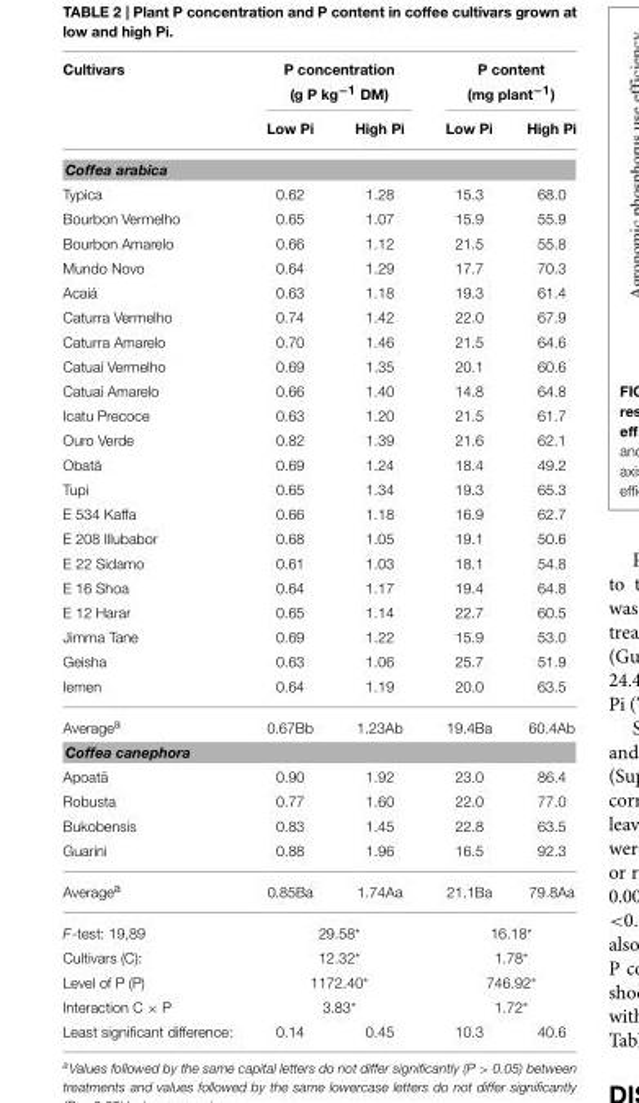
<table><thead><tr><td rowspan="2">Cultivars</td><td colspan="2">P concentration (g P kg<sup>−1</sup> DM)</td><td colspan="2">P content (mg plant<sup>−1</sup>)</td></tr><tr><td>Low Pi</td><td>High Pi</td><td>Low Pi</td><td>High Pi</td></tr></thead><tbody><tr><td colspan="5">Coffea arabica</td></tr><tr><td>Typica</td><td>0.62</td><td>1.28</td><td>15.3</td><td>68.0</td></tr><tr><td>Bourbon Vermelho</td><td>0.65</td><td>1.07</td><td>15.9</td><td>55.9</td></tr><tr><td>Bourbon Amarelo</td><td>0.66</td><td>1.12</td><td>21.5</td><td>55.8</td></tr><tr><td>Mundo Novo</td><td>0.64</td><td>1.29</td><td>17.7</td><td>70.3</td></tr><tr><td>Acaiá</td><td>0.63</td><td>1.18</td><td>19.3</td><td>61.4</td></tr><tr><td>Caturra Vermelho</td><td>0.74</td><td>1.42</td><td>22.0</td><td>67.9</td></tr><tr><td>Caturra Amarelo</td><td>0.70</td><td>1.46</td><td>21.5</td><td>64.6</td></tr><tr><td>Catuaí Vermelho</td><td>0.69</td><td>1.35</td><td>20.1</td><td>60.6</td></tr><tr><td>Catuaí Amarelo</td><td>0.66</td><td>1.40</td><td>14.8</td><td>64.8</td></tr><tr><td>Icatu Precoce</td><td>0.63</td><td>1.20</td><td>21.5</td><td>61.7</td></tr><tr><td>Ouro Verde</td><td>0.82</td><td>1.39</td><td>21.6</td><td>62.1</td></tr><tr><td>Obatã</td><td>0.69</td><td>1.24</td><td>18.4</td><td>49.2</td></tr><tr><td>Tupi</td><td>0.65</td><td>1.34</td><td>19.3</td><td>65.3</td></tr><tr><td>E 534 Kaffa</td><td>0.66</td><td>1.18</td><td>16.9</td><td>62.7</td></tr><tr><td>E 208 Illubabor</td><td>0.68</td><td>1.05</td><td>19.1</td><td>50.6</td></tr><tr><td>E 22 Sidamo</td><td>0.61</td><td>1.03</td><td>18.1</td><td>54.8</td></tr><tr><td>E 16 Shoa</td><td>0.64</td><td>1.17</td><td>19.4</td><td>64.8</td></tr><tr><td>E 12 Harar</td><td>0.65</td><td>1.14</td><td>22.7</td><td>60.5</td></tr><tr><td>Jimma Tane</td><td>0.69</td><td>1.22</td><td>15.9</td><td>53.0</td></tr><tr><td>Geisha</td><td>0.63</td><td>1.06</td><td>25.7</td><td>51.9</td></tr><tr><td>Iemen</td><td>0.64</td><td>1.19</td><td>20.0</td><td>63.5</td></tr><tr><td>Average<sup>a</sup></td><td>0.67Bb</td><td>1.23Ab</td><td>19.4Ba</td><td>60.4Ab</td></tr><tr><td colspan="5">Coffea canephora</td></tr><tr><td>Apoatã</td><td>0.90</td><td>1.92</td><td>23.0</td><td>86.4</td></tr><tr><td>Robusta</td><td>0.77</td><td>1.60</td><td>22.0</td><td>77.0</td></tr><tr><td>Bukobensis</td><td>0.83</td><td>1.45</td><td>22.8</td><td>63.5</td></tr><tr><td>Guarini</td><td>0.88</td><td>1.96</td><td>16.5</td><td>92.3</td></tr><tr><td>Average<sup>a</sup></td><td>0.85Ba</td><td>1.74Aa</td><td>21.1Ba</td><td>79.8Aa</td></tr><tr><td>F-test: 19,89</td><td colspan="2">29.58*</td><td colspan="2">16.18*</td></tr><tr><td>Cultivars (C):</td><td colspan="2">12.32*</td><td colspan="2">1.78*</td></tr><tr><td>Level of P (P)</td><td colspan="2">1172.40*</td><td colspan="2">746.92*</td></tr><tr><td>Interaction C × P</td><td colspan="2">3.83*</td><td colspan="2">1.72*</td></tr><tr><td>Least significant difference:</td><td>0.14</td><td>0.45</td><td>10.3</td><td>40.6</td></tr></tbody></table>